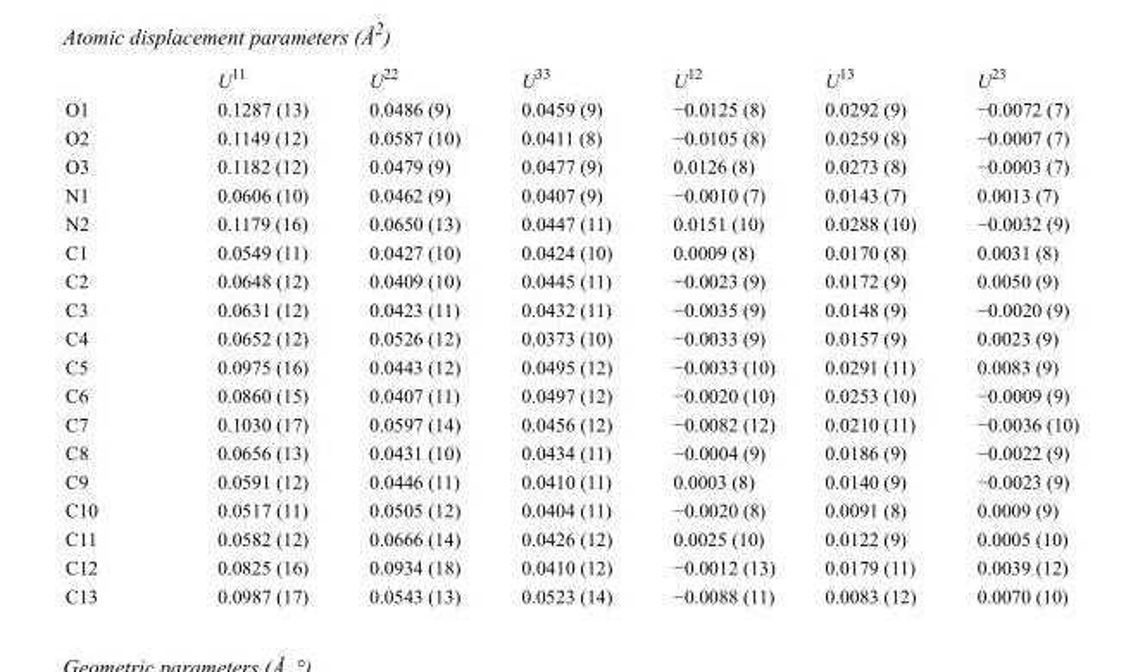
<table><thead><tr><td></td><td>U<sup>11</sup></td><td>U<sup>22</sup></td><td>U<sup>33</sup></td><td>U<sup>12</sup></td><td>U<sup>13</sup></td><td>U<sup>23</sup></td></tr></thead><tbody><tr><td>O1</td><td>0.1287 (13)</td><td>0.0486 (9)</td><td>0.0459 (9)</td><td>−0.0125 (8)</td><td>0.0292 (9)</td><td>−0.0072 (7)</td></tr><tr><td>O2</td><td>0.1149 (12)</td><td>0.0587 (10)</td><td>0.0411 (8)</td><td>−0.0105 (8)</td><td>0.0259 (8)</td><td>−0.0007 (7)</td></tr><tr><td>O3</td><td>0.1182 (12)</td><td>0.0479 (9)</td><td>0.0477 (9)</td><td>0.0126 (8)</td><td>0.0273 (8)</td><td>−0.0003 (7)</td></tr><tr><td>N1</td><td>0.0606 (10)</td><td>0.0462 (9)</td><td>0.0407 (9)</td><td>−0.0010 (7)</td><td>0.0143 (7)</td><td>0.0013 (7)</td></tr><tr><td>N2</td><td>0.1179 (16)</td><td>0.0650 (13)</td><td>0.0447 (11)</td><td>0.0151 (10)</td><td>0.0288 (10)</td><td>−0.0032 (9)</td></tr><tr><td>C1</td><td>0.0549 (11)</td><td>0.0427 (10)</td><td>0.0424 (10)</td><td>0.0009 (8)</td><td>0.0170 (8)</td><td>0.0031 (8)</td></tr><tr><td>C2</td><td>0.0648 (12)</td><td>0.0409 (10)</td><td>0.0445 (11)</td><td>−0.0023 (9)</td><td>0.0172 (9)</td><td>0.0050 (9)</td></tr><tr><td>C3</td><td>0.0631 (12)</td><td>0.0423 (11)</td><td>0.0432 (11)</td><td>−0.0035 (9)</td><td>0.0148 (9)</td><td>−0.0020 (9)</td></tr><tr><td>C4</td><td>0.0652 (12)</td><td>0.0526 (12)</td><td>0.0373 (10)</td><td>−0.0033 (9)</td><td>0.0157 (9)</td><td>0.0023 (9)</td></tr><tr><td>C5</td><td>0.0975 (16)</td><td>0.0443 (12)</td><td>0.0495 (12)</td><td>−0.0033 (10)</td><td>0.0291 (11)</td><td>0.0083 (9)</td></tr><tr><td>C6</td><td>0.0860 (15)</td><td>0.0407 (11)</td><td>0.0497 (12)</td><td>−0.0020 (10)</td><td>0.0253 (10)</td><td>−0.0009 (9)</td></tr><tr><td>C7</td><td>0.1030 (17)</td><td>0.0597 (14)</td><td>0.0456 (12)</td><td>−0.0082 (12)</td><td>0.0210 (11)</td><td>−0.0036 (10)</td></tr><tr><td>C8</td><td>0.0656 (13)</td><td>0.0431 (10)</td><td>0.0434 (11)</td><td>−0.0004 (9)</td><td>0.0186 (9)</td><td>−0.0022 (9)</td></tr><tr><td>C9</td><td>0.0591 (12)</td><td>0.0446 (11)</td><td>0.0410 (11)</td><td>0.0003 (8)</td><td>0.0140 (9)</td><td>−0.0023 (9)</td></tr><tr><td>C10</td><td>0.0517 (11)</td><td>0.0505 (12)</td><td>0.0404 (11)</td><td>−0.0020 (8)</td><td>0.0091 (8)</td><td>0.0009 (9)</td></tr><tr><td>C11</td><td>0.0582 (12)</td><td>0.0666 (14)</td><td>0.0426 (12)</td><td>0.0025 (10)</td><td>0.0122 (9)</td><td>0.0005 (10)</td></tr><tr><td>C12</td><td>0.0825 (16)</td><td>0.0934 (18)</td><td>0.0410 (12)</td><td>−0.0012 (13)</td><td>0.0179 (11)</td><td>0.0039 (12)</td></tr><tr><td>C13</td><td>0.0987 (17)</td><td>0.0543 (13)</td><td>0.0523 (14)</td><td>−0.0088 (11)</td><td>0.0083 (12)</td><td>0.0070 (10)</td></tr></tbody></table>